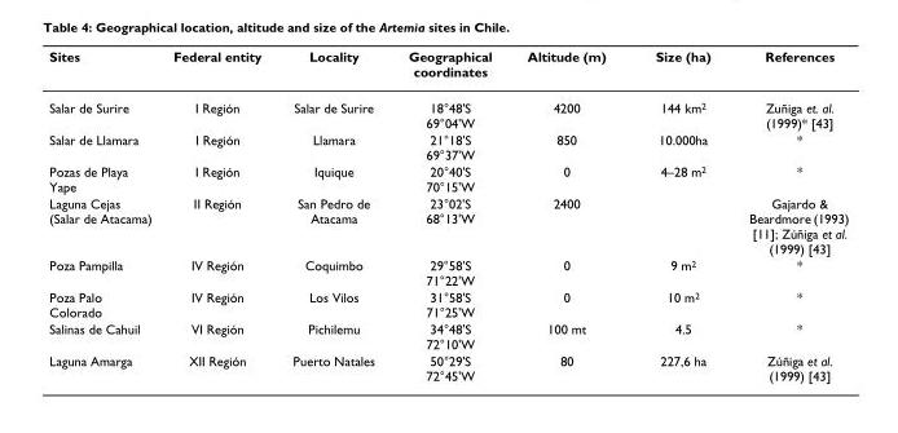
<table><thead><tr><td>Sites</td><td>Federal entity</td><td>Locality</td><td>Geographical coordinates</td><td>Altitude (m)</td><td>Size (ha)</td><td>References</td></tr></thead><tbody><tr><td>Salar de Surire</td><td>I Región</td><td>Salar de Surire</td><td>18°48&#x27;S 69°04&#x27;W</td><td>4200</td><td>144 km<sup>2</sup></td><td>Zuñiga et. al. (1999)* [43]</td></tr><tr><td>Salar de Llamara</td><td>I Región</td><td>Llamara</td><td>21°18&#x27;S 69°37&#x27;W</td><td>850</td><td>10.000ha</td><td>*</td></tr><tr><td>Pozas de Playa Yape</td><td>I Región</td><td>Iquique</td><td>20°40&#x27;S 70°15&#x27;W</td><td>0</td><td>4–28 m<sup>2</sup></td><td>*</td></tr><tr><td>Laguna Cejas (Salar de Atacama)</td><td>II Región</td><td>San Pedro de Atacama</td><td>23°02&#x27;S 68°13&#x27;W</td><td>2400</td><td></td><td>Gajardo &amp; Beardmore (1993) [11]; Zúñiga et al. (1999) [43]</td></tr><tr><td>Poza Pampilla</td><td>IV Región</td><td>Coquimbo</td><td>29°58&#x27;S 71°22&#x27;W</td><td>0</td><td>9 m<sup>2</sup></td><td>*</td></tr><tr><td>Poza Palo Colorado</td><td>IV Región</td><td>Los Vilos</td><td>31°58&#x27;S 71°25&#x27;W</td><td>0</td><td>10 m<sup>2</sup></td><td>*</td></tr><tr><td>Salinas de Cahuil</td><td>VI Región</td><td>Pichilemu</td><td>34°48&#x27;S 72°10&#x27;W</td><td>100 mt</td><td>4.5</td><td>*</td></tr><tr><td>Laguna Amarga</td><td>XII Región</td><td>Puerto Natales</td><td>50°29&#x27;S 72°45&#x27;W</td><td>80</td><td>227,6 ha</td><td>Zúñiga et al. (1999) [43]</td></tr></tbody></table>